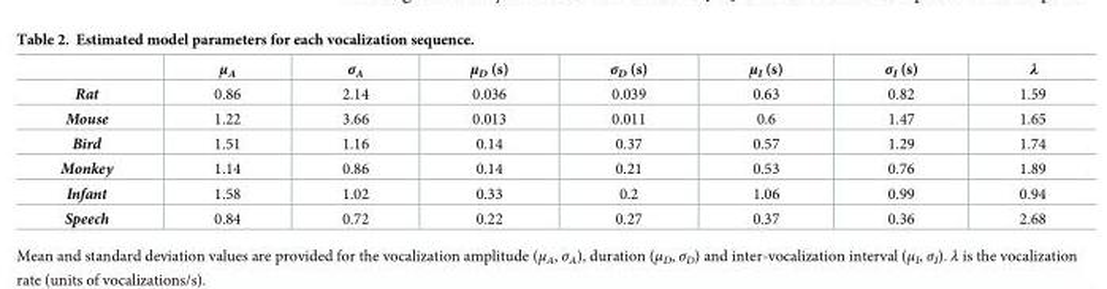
<table><thead><tr><td></td><td>μ<sub>A</sub></td><td>σ<sub>A</sub></td><td>μ<sub>D</sub> (s)</td><td>σ<sub>D</sub> (s)</td><td>μ<sub>I</sub> (s)</td><td>σ<sub>I</sub> (s)</td><td>λ</td></tr></thead><tbody><tr><td>Rat</td><td>0.86</td><td>2.14</td><td>0.036</td><td>0.039</td><td>0.63</td><td>0.82</td><td>1.59</td></tr><tr><td>Mouse</td><td>1.22</td><td>3.66</td><td>0.013</td><td>0.011</td><td>0.6</td><td>1.47</td><td>1.65</td></tr><tr><td>Bird</td><td>1.51</td><td>1.16</td><td>0.14</td><td>0.37</td><td>0.57</td><td>1.29</td><td>1.74</td></tr><tr><td>Monkey</td><td>1.14</td><td>0.86</td><td>0.14</td><td>0.21</td><td>0.53</td><td>0.76</td><td>1.89</td></tr><tr><td>Infant</td><td>1.58</td><td>1.02</td><td>0.33</td><td>0.2</td><td>1.06</td><td>0.99</td><td>0.94</td></tr><tr><td>Speech</td><td>0.84</td><td>0.72</td><td>0.22</td><td>0.27</td><td>0.37</td><td>0.36</td><td>2.68</td></tr></tbody></table>